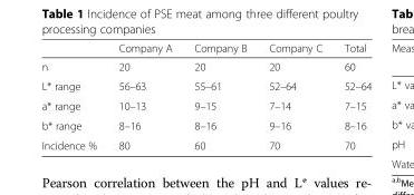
<table><thead><tr><td></td><td>Company A</td><td>Company B</td><td>Company C</td><td>Total</td></tr></thead><tbody><tr><td>n</td><td>20</td><td>20</td><td>20</td><td>60</td></tr><tr><td>L* range</td><td>56–63</td><td>55–61</td><td>52–64</td><td>52–64</td></tr><tr><td>a* range</td><td>10–13</td><td>9–15</td><td>7–14</td><td>7–15</td></tr><tr><td>b* range</td><td>8–16</td><td>8–16</td><td>9–16</td><td>8–16</td></tr><tr><td>Incidence %</td><td>80</td><td>60</td><td>70</td><td>70</td></tr></tbody></table>